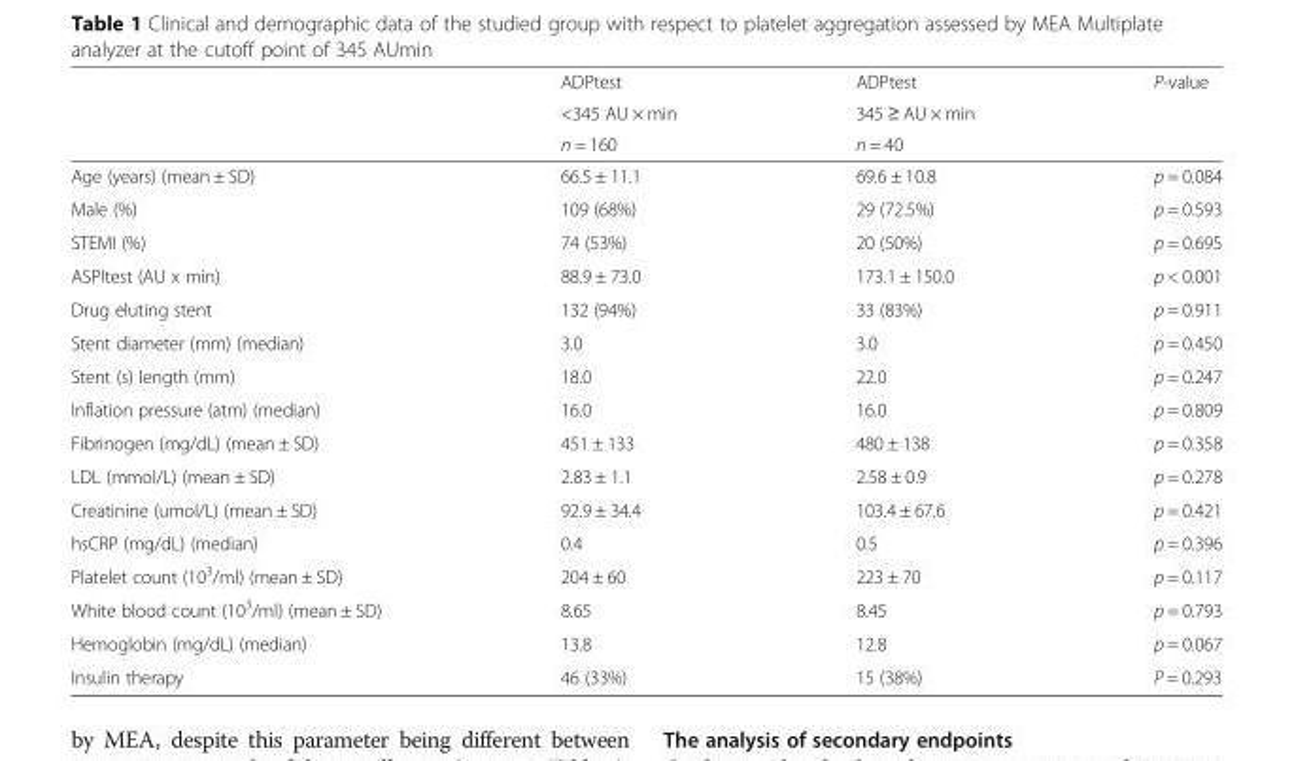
<table><thead><tr><td rowspan="3"></td><td rowspan="3">ADPtest &lt;345 AU × min n = 160</td><td rowspan="3">ADPtest 345 ≥ AU × min n = 40</td><td rowspan="3">P-value</td></tr><tr></tr><tr></tr></thead><tbody><tr><td>Age (years) (mean ± SD)</td><td>66.5 ± 11.1</td><td>69.6 ± 10.8</td><td>p = 0.084</td></tr><tr><td>Male (%)</td><td>109 (68%)</td><td>29 (72.5%)</td><td>p = 0.593</td></tr><tr><td>STEMI (%)</td><td>74 (53%)</td><td>20 (50%)</td><td>p = 0.695</td></tr><tr><td>ASPItest (AU x min)</td><td>88.9 ± 73.0</td><td>173.1 ± 150.0</td><td>p &lt; 0.001</td></tr><tr><td>Drug eluting stent</td><td>132 (94%)</td><td>33 (83%)</td><td>p = 0.911</td></tr><tr><td>Stent diameter (mm) (median)</td><td>3.0</td><td>3.0</td><td>p = 0.450</td></tr><tr><td>Stent (s) length (mm)</td><td>18.0</td><td>22.0</td><td>p = 0.247</td></tr><tr><td>Inflation pressure (atm) (median)</td><td>16.0</td><td>16.0</td><td>p = 0.809</td></tr><tr><td>Fibrinogen (mg/dL) (mean ± SD)</td><td>451 ± 133</td><td>480 ± 138</td><td>p = 0.358</td></tr><tr><td>LDL (mmol/L) (mean ± SD)</td><td>2.83 ± 1.1</td><td>2.58 ± 0.9</td><td>p = 0.278</td></tr><tr><td>Creatinine (umol/L) (mean ± SD)</td><td>92.9 ± 34.4</td><td>103.4 ± 67.6</td><td>p = 0.421</td></tr><tr><td>hsCRP (mg/dL) (median)</td><td>0.4</td><td>0.5</td><td>p = 0.396</td></tr><tr><td>Platelet count (10<sup>3</sup>/ml) (mean ± SD)</td><td>204 ± 60</td><td>223 ± 70</td><td>p = 0.117</td></tr><tr><td>White blood count (10<sup>3</sup>/ml) (mean ± SD)</td><td>8.65</td><td>8.45</td><td>p = 0.793</td></tr><tr><td>Hemoglobin (mg/dL) (median)</td><td>13.8</td><td>12.8</td><td>p = 0.067</td></tr><tr><td>Insulin therapy</td><td>46 (33%)</td><td>15 (38%)</td><td>P = 0.293</td></tr></tbody></table>